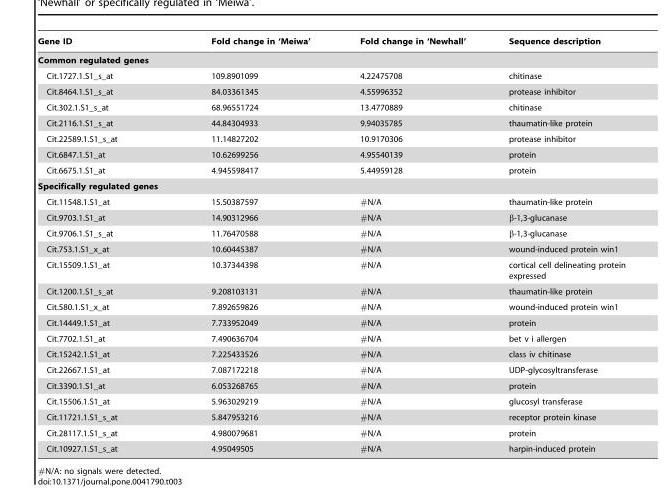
<table><thead><tr><td>Gene ID</td><td>Fold change in ‘Meiwa’</td><td>Fold change in ‘Newhall’</td><td>Sequence description</td></tr></thead><tbody><tr><td colspan="4">Common regulated genes</td></tr><tr><td>Cit.1727.1.S1_s_at</td><td>109.8901099</td><td>4.22475708</td><td>chitinase</td></tr><tr><td>Cit.8464.1.S1_s_at</td><td>84.03361345</td><td>4.55996352</td><td>protease inhibitor</td></tr><tr><td>Cit.302.1.S1_s_at</td><td>68.96551724</td><td>13.4770889</td><td>chitinase</td></tr><tr><td>Cit.2116.1.S1_s_at</td><td>44.84304933</td><td>9.94035785</td><td>thaumatin-like protein</td></tr><tr><td>Cit.22589.1.S1_s_at</td><td>11.14827202</td><td>10.9170306</td><td>protease inhibitor</td></tr><tr><td>Cit.6847.1.S1_at</td><td>10.62699256</td><td>4.95540139</td><td>protein</td></tr><tr><td>Cit.6675.1.S1_at</td><td>4.945598417</td><td>5.44959128</td><td>protein</td></tr><tr><td colspan="4">Specifically regulated genes</td></tr><tr><td>Cit.11548.1.S1_at</td><td>15.50387597</td><td>#N/A</td><td>thaumatin-like protein</td></tr><tr><td>Cit.9703.1.S1_at</td><td>14.90312966</td><td>#N/A</td><td>β-1,3-glucanase</td></tr><tr><td>Cit.9706.1.S1_s_at</td><td>11.76470588</td><td>#N/A</td><td>β-1,3-glucanase</td></tr><tr><td>Cit.753.1.S1_x_at</td><td>10.60445387</td><td>#N/A</td><td>wound-induced protein win1</td></tr><tr><td>Cit.15509.1.S1_at</td><td>10.37344398</td><td>#N/A</td><td>cortical cell delineating protein expressed</td></tr><tr><td>Cit.1200.1.S1_s_at</td><td>9.208103131</td><td>#N/A</td><td>thaumatin-like protein</td></tr><tr><td>Cit.580.1.S1_x_at</td><td>7.892659826</td><td>#N/A</td><td>wound-induced protein win1</td></tr><tr><td>Cit.14449.1.S1_at</td><td>7.733952049</td><td>#N/A</td><td>protein</td></tr><tr><td>Cit.7702.1.S1_at</td><td>7.490636704</td><td>#N/A</td><td>bet v i allergen</td></tr><tr><td>Cit.15242.1.S1_at</td><td>7.225433526</td><td>#N/A</td><td>class iv chitinase</td></tr><tr><td>Cit.22667.1.S1_at</td><td>7.087172218</td><td>#N/A</td><td>UDP-glycosyltransferase</td></tr><tr><td>Cit.3390.1.S1_at</td><td>6.053268765</td><td>#N/A</td><td>protein</td></tr><tr><td>Cit.15506.1.S1_at</td><td>5.963029219</td><td>#N/A</td><td>glucosyl transferase</td></tr><tr><td>Cit.11721.1.S1_s_at</td><td>5.847953216</td><td>#N/A</td><td>receptor protein kinase</td></tr><tr><td>Cit.28117.1.S1_s_at</td><td>4.980079681</td><td>#N/A</td><td>protein</td></tr><tr><td>Cit.10927.1.S1_s_at</td><td>4.95049505</td><td>#N/A</td><td>harpin-induced protein</td></tr></tbody></table>